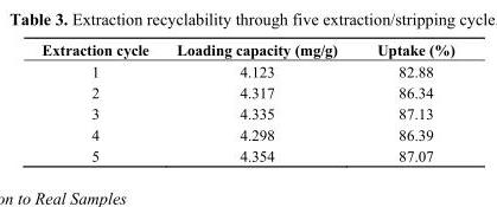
<table><thead><tr><td>Extraction cycle</td><td>Loading capacity (mg/g)</td><td>Uptake (%)</td></tr></thead><tbody><tr><td>1</td><td>4.123</td><td>82.88</td></tr><tr><td>2</td><td>4.317</td><td>86.34</td></tr><tr><td>3</td><td>4.335</td><td>87.13</td></tr><tr><td>4</td><td>4.298</td><td>86.39</td></tr><tr><td>5</td><td>4.354</td><td>87.07</td></tr></tbody></table>